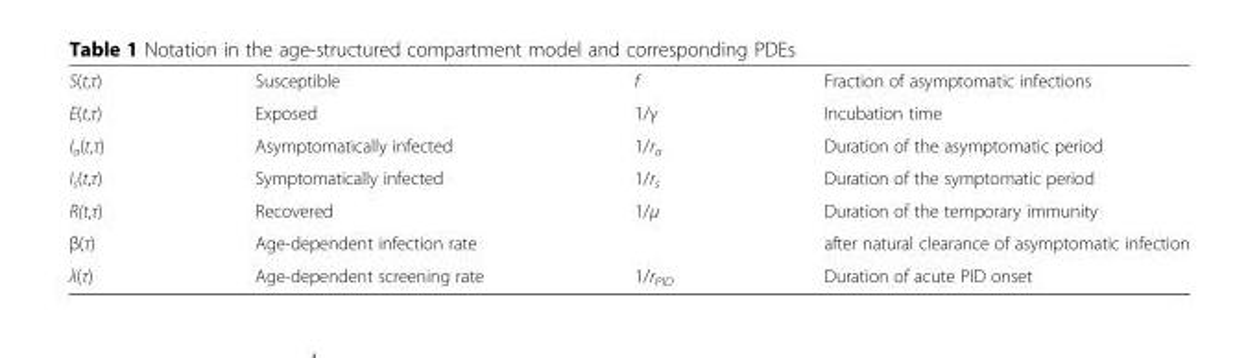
<table><tbody><tr><td>S(t,τ)</td><td>Susceptible</td><td>f</td><td>Fraction of asymptomatic infections</td></tr><tr><td>E(t,τ)</td><td>Exposed</td><td>1/γ</td><td>Incubation time</td></tr><tr><td>I<sub>a</sub>(t,τ)</td><td>Asymptomatically infected</td><td>1/r<sub>a</sub></td><td>Duration of the asymptomatic period</td></tr><tr><td>I<sub>s</sub>(t,τ)</td><td>Symptomatically infected</td><td>1/r<sub>s</sub></td><td>Duration of the symptomatic period</td></tr><tr><td>R(t,τ)</td><td>Recovered</td><td>1/μ</td><td>Duration of the temporary immunity</td></tr><tr><td>β(τ)</td><td>Age-dependent infection rate</td><td></td><td>after natural clearance of asymptomatic infection</td></tr><tr><td>λ(τ)</td><td>Age-dependent screening rate</td><td>1/r<sub>PID</sub></td><td>Duration of acute PID onset</td></tr></tbody></table>